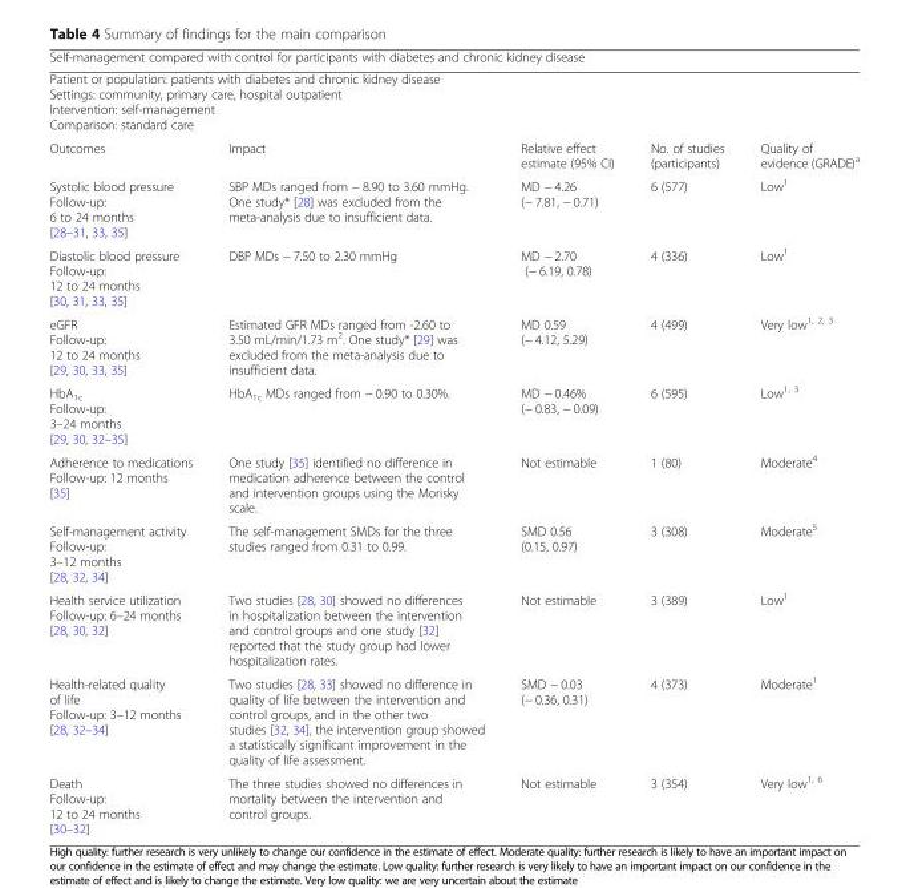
<table><thead><tr><td rowspan="2" colspan="5">Self-management compared with control for participants with diabetes and chronic kidney disease Patient or population: patients with diabetes and chronic kidney disease Settings: community, primary care, hospital outpatient Intervention: self-management Comparison: standard care</td></tr><tr></tr><tr><td>Outcomes</td><td>Impact</td><td>Relative effect estimate (95% CI)</td><td>No. of studies (participants)</td><td>Quality of evidence (GRADE)<sup>a</sup></td></tr></thead><tbody><tr><td>Systolic blood pressure Follow-up: 6 to 24 months [28–31, 33, 35]</td><td>SBP MDs ranged from − 8.90 to 3.60 mmHg. One study* [28] was excluded from the meta-analysis due to insufficient data.</td><td>MD − 4.26 (− 7.81, − 0.71)</td><td>6 (577)</td><td>Low<sup>1</sup></td></tr><tr><td>Diastolic blood pressure Follow-up: 12 to 24 months [30, 31, 33, 35]</td><td>DBP MDs − 7.50 to 2.30 mmHg</td><td>MD − 2.70 (− 6.19, 0.78)</td><td>4 (336)</td><td>Low<sup>1</sup></td></tr><tr><td>eGFR Follow-up: 12 to 24 months [29, 30, 33, 35]</td><td>Estimated GFR MDs ranged from -2.60 to 3.50 mL/min/1.73 m<sup>2</sup>. One study* [29] was excluded from the meta-analysis due to insufficient data.</td><td>MD 0.59 (− 4.12, 5.29)</td><td>4 (499)</td><td>Very low<sup>1, 2, 3</sup></td></tr><tr><td>HbA<sub>1c</sub> Follow-up: 3–24 months [29, 30, 32–35]</td><td>HbA<sub>1c</sub> MDs ranged from − 0.90 to 0.30%.</td><td>MD − 0.46% (− 0.83, − 0.09)</td><td>6 (595)</td><td>Low<sup>1, 3</sup></td></tr><tr><td>Adherence to medications Follow-up: 12 months [35]</td><td>One study [35] identified no difference in medication adherence between the control and intervention groups using the Morisky scale.</td><td>Not estimable</td><td>1 (80)</td><td>Moderate<sup>4</sup></td></tr><tr><td>Self-management activity Follow-up: 3–12 months [28, 32, 34]</td><td>The self-management SMDs for the three studies ranged from 0.31 to 0.99.</td><td>SMD 0.56 (0.15, 0.97)</td><td>3 (308)</td><td>Moderate<sup>5</sup></td></tr><tr><td>Health service utilization Follow-up: 6–24 months [28, 30, 32]</td><td>Two studies [28, 30] showed no differences in hospitalization between the intervention and control groups and one study [32] reported that the study group had lower hospitalization rates.</td><td>Not estimable</td><td>3 (389)</td><td>Low<sup>1</sup></td></tr><tr><td>Health-related quality of life Follow-up: 3–12 months [28, 32–34]</td><td>Two studies [28, 33] showed no difference in quality of life between the intervention and control groups, and in the other two studies [32, 34], the intervention group showed a statistically significant improvement in the quality of life assessment.</td><td>SMD − 0.03 (− 0.36, 0.31)</td><td>4 (373)</td><td>Moderate<sup>1</sup></td></tr><tr><td>Death Follow-up: 12 to 24 months [30–32]</td><td>The three studies showed no differences in mortality between the intervention and control groups.</td><td>Not estimable</td><td>3 (354)</td><td>Very low<sup>1, 6</sup></td></tr></tbody></table>